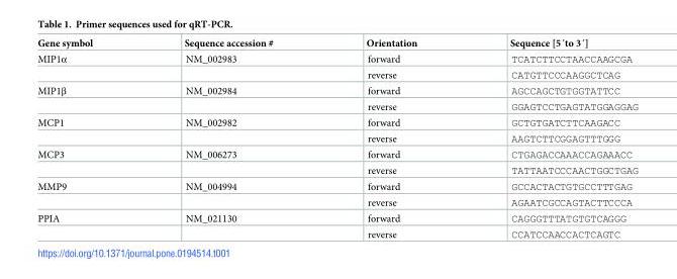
<table><thead><tr><td>Gene symbol</td><td>Sequence accession #</td><td>Orientation</td><td>Sequence [5´to 3´]</td></tr></thead><tbody><tr><td rowspan="2">MIP1α</td><td>NM_002983</td><td>forward</td><td>TCATCTTCCTAACCAAGCGA</td></tr><tr><td></td><td>reverse</td><td>CATGTTCCCAAGGCTCAG</td></tr><tr><td rowspan="2">MIP1β</td><td>NM_002984</td><td>forward</td><td>AGCCAGCTGTGGTATTCC</td></tr><tr><td></td><td>reverse</td><td>GGAGTCCTGAGTATGGAGGAG</td></tr><tr><td rowspan="2">MCP1</td><td>NM_002982</td><td>forward</td><td>GCTGTGATCTTCAAGACC</td></tr><tr><td></td><td>reverse</td><td>AAGTCTTCGGAGTTTGGG</td></tr><tr><td rowspan="2">MCP3</td><td>NM_006273</td><td>forward</td><td>CTGAGACCAAACCAGAAACC</td></tr><tr><td></td><td>reverse</td><td>TATTAATCCCAACTGGCTGAG</td></tr><tr><td rowspan="2">MMP9</td><td>NM_004994</td><td>forward</td><td>GCCACTACTGTGCCTTTGAG</td></tr><tr><td></td><td>reverse</td><td>AGAATCGCCAGTACTTCCCA</td></tr><tr><td rowspan="2">PPIA</td><td>NM_021130</td><td>forward</td><td>CAGGGTTTATGTGTCAGGG</td></tr><tr><td></td><td>reverse</td><td>CCATCCAACCACTCAGTC</td></tr></tbody></table>